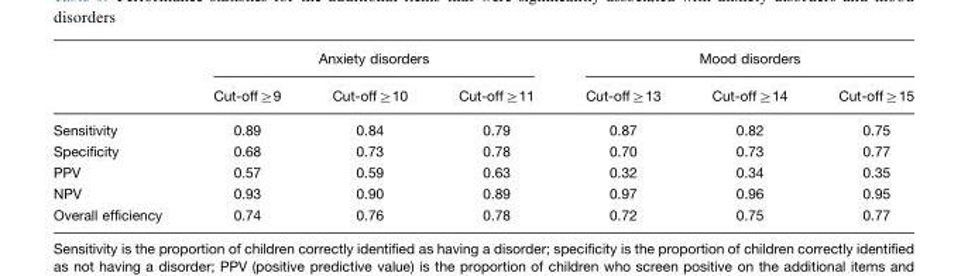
<table><thead><tr><td rowspan="2"></td><td colspan="3">Anxiety disorders</td><td colspan="3">Mood disorders</td></tr><tr><td>Cut-off≥9</td><td>Cut-off≥10</td><td>Cut-off≥11</td><td>Cut-off≥13</td><td>Cut-off≥14</td><td>Cut-off≥15</td></tr></thead><tbody><tr><td>Sensitivity</td><td>0.89</td><td>0.84</td><td>0.79</td><td>0.87</td><td>0.82</td><td>0.75</td></tr><tr><td>Specificity</td><td>0.68</td><td>0.73</td><td>0.78</td><td>0.70</td><td>0.73</td><td>0.77</td></tr><tr><td>PPV</td><td>0.57</td><td>0.59</td><td>0.63</td><td>0.32</td><td>0.34</td><td>0.35</td></tr><tr><td>NPV</td><td>0.93</td><td>0.90</td><td>0.89</td><td>0.97</td><td>0.96</td><td>0.95</td></tr><tr><td>Overall efficiency</td><td>0.74</td><td>0.76</td><td>0.78</td><td>0.72</td><td>0.75</td><td>0.77</td></tr></tbody></table>